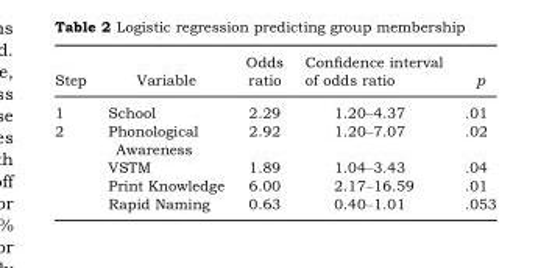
<table><thead><tr><td>Step</td><td>Variable</td><td>Odds ratio</td><td>Confidence interval of odds ratio</td><td>p</td></tr></thead><tbody><tr><td>1</td><td>School</td><td>2.29</td><td>1.20–4.37</td><td>.01</td></tr><tr><td rowspan="4">2</td><td>Phonological Awareness</td><td>2.92</td><td>1.20–7.07</td><td>.02</td></tr><tr><td>VSTM</td><td>1.89</td><td>1.04–3.43</td><td>.04</td></tr><tr><td>Print Knowledge</td><td>6.00</td><td>2.17–16.59</td><td>.01</td></tr><tr><td>Rapid Naming</td><td>0.63</td><td>0.40–1.01</td><td>.053</td></tr></tbody></table>